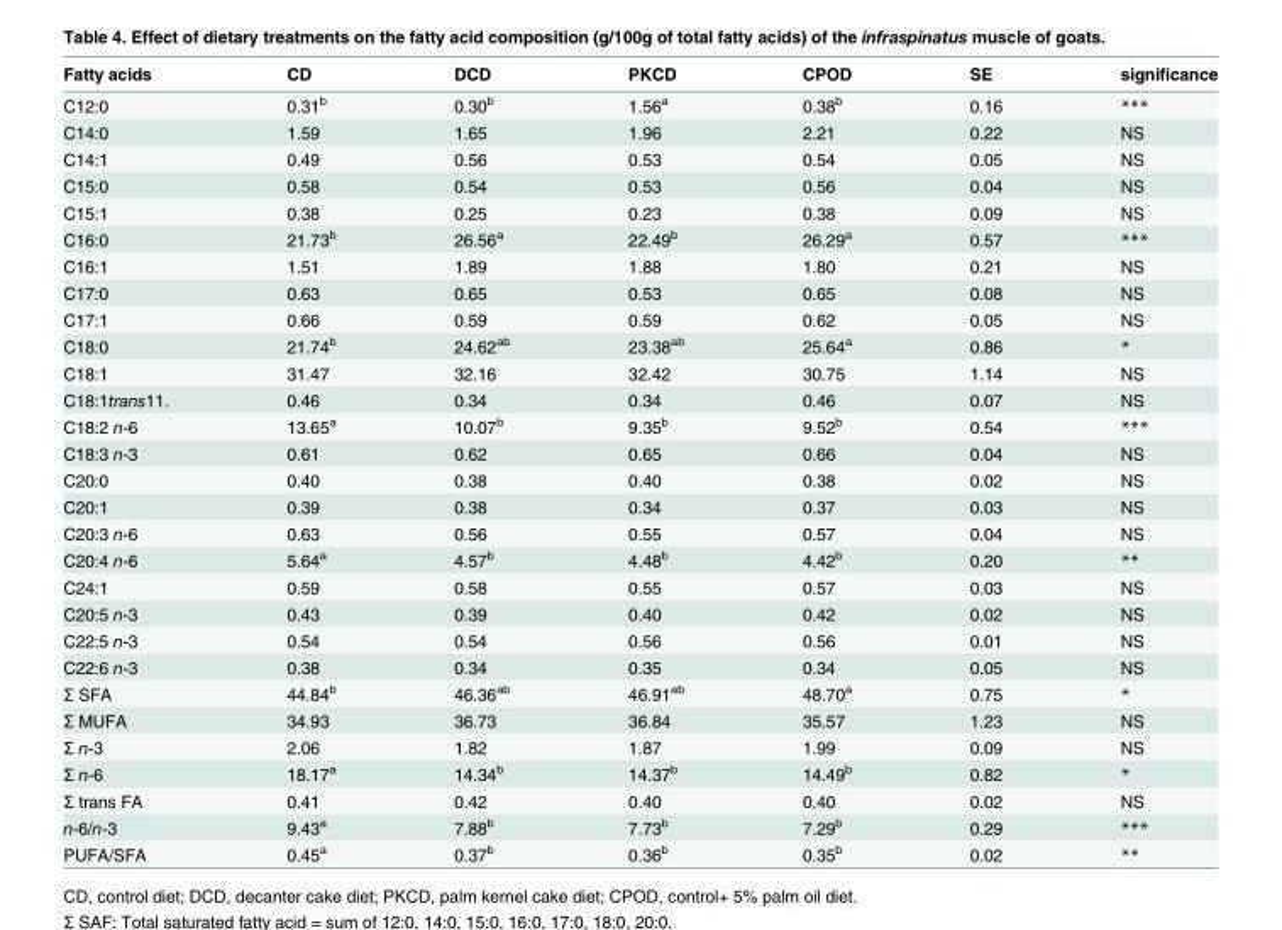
<table><thead><tr><td>Fatty acids</td><td>CD</td><td>DCD</td><td>PKCD</td><td>CPOD</td><td>SE</td><td>significance</td></tr></thead><tbody><tr><td>C12:0</td><td>0.31<sup>b</sup></td><td>0.30<sup>b</sup></td><td>1.56<sup>a</sup></td><td>0.38<sup>b</sup></td><td>0.16</td><td>***</td></tr><tr><td>C14:0</td><td>1.59</td><td>1.65</td><td>1.96</td><td>2.21</td><td>0.22</td><td>NS</td></tr><tr><td>C14:1</td><td>0.49</td><td>0.56</td><td>0.53</td><td>0.54</td><td>0.05</td><td>NS</td></tr><tr><td>C15:0</td><td>0.58</td><td>0.54</td><td>0.53</td><td>0.56</td><td>0.04</td><td>NS</td></tr><tr><td>C15:1</td><td>0.38</td><td>0.25</td><td>0.23</td><td>0.38</td><td>0.09</td><td>NS</td></tr><tr><td>C16:0</td><td>21.73<sup>b</sup></td><td>26.56<sup>a</sup></td><td>22.49<sup>b</sup></td><td>26.29<sup>a</sup></td><td>0.57</td><td>***</td></tr><tr><td>C16:1</td><td>1.51</td><td>1.89</td><td>1.88</td><td>1.80</td><td>0.21</td><td>NS</td></tr><tr><td>C17:0</td><td>0.63</td><td>0.65</td><td>0.53</td><td>0.65</td><td>0.08</td><td>NS</td></tr><tr><td>C17:1</td><td>0.66</td><td>0.59</td><td>0.59</td><td>0.62</td><td>0.05</td><td>NS</td></tr><tr><td>C18:0</td><td>21.74<sup>b</sup></td><td>24.62<sup>ab</sup></td><td>23.38<sup>ab</sup></td><td>25.64<sup>a</sup></td><td>0.86</td><td>*</td></tr><tr><td>C18:1</td><td>31.47</td><td>32.16</td><td>32.42</td><td>30.75</td><td>1.14</td><td>NS</td></tr><tr><td>C18:1trans11.</td><td>0.46</td><td>0.34</td><td>0.34</td><td>0.46</td><td>0.07</td><td>NS</td></tr><tr><td>C18:2 n-6</td><td>13.65<sup>a</sup></td><td>10.07<sup>b</sup></td><td>9.35<sup>b</sup></td><td>9.52<sup>b</sup></td><td>0.54</td><td>***</td></tr><tr><td>C18:3 n-3</td><td>0.61</td><td>0.62</td><td>0.65</td><td>0.66</td><td>0.04</td><td>NS</td></tr><tr><td>C20:0</td><td>0.40</td><td>0.38</td><td>0.40</td><td>0.38</td><td>0.02</td><td>NS</td></tr><tr><td>C20:1</td><td>0.39</td><td>0.38</td><td>0.34</td><td>0.37</td><td>0.03</td><td>NS</td></tr><tr><td>C20:3 n-6</td><td>0.63</td><td>0.56</td><td>0.55</td><td>0.57</td><td>0.04</td><td>NS</td></tr><tr><td>C20:4 n-6</td><td>5.64<sup>a</sup></td><td>4.57<sup>b</sup></td><td>4.48<sup>b</sup></td><td>4.42<sup>b</sup></td><td>0.20</td><td>**</td></tr><tr><td>C24:1</td><td>0.59</td><td>0.58</td><td>0.55</td><td>0.57</td><td>0.03</td><td>NS</td></tr><tr><td>C20:5 n-3</td><td>0.43</td><td>0.39</td><td>0.40</td><td>0.42</td><td>0.02</td><td>NS</td></tr><tr><td>C22:5 n-3</td><td>0.54</td><td>0.54</td><td>0.56</td><td>0.56</td><td>0.01</td><td>NS</td></tr><tr><td>C22:6 n-3</td><td>0.38</td><td>0.34</td><td>0.35</td><td>0.34</td><td>0.05</td><td>NS</td></tr><tr><td>Σ SFA</td><td>44.84<sup>b</sup></td><td>46.36<sup>ab</sup></td><td>46.91<sup>ab</sup></td><td>48.70<sup>a</sup></td><td>0.75</td><td>*</td></tr><tr><td>Σ MUFA</td><td>34.93</td><td>36.73</td><td>36.84</td><td>35.57</td><td>1.23</td><td>NS</td></tr><tr><td>Σ n-3</td><td>2.06</td><td>1.82</td><td>1.87</td><td>1.99</td><td>0.09</td><td>NS</td></tr><tr><td>Σ n-6</td><td>18.17<sup>a</sup></td><td>14.34<sup>b</sup></td><td>14.37<sup>b</sup></td><td>14.49<sup>b</sup></td><td>0.82</td><td>*</td></tr><tr><td>Σ trans FA</td><td>0.41</td><td>0.42</td><td>0.40</td><td>0.40</td><td>0.02</td><td>NS</td></tr><tr><td>n-6/n-3</td><td>9.43<sup>a</sup></td><td>7.88<sup>b</sup></td><td>7.73<sup>b</sup></td><td>7.29<sup>b</sup></td><td>0.29</td><td>***</td></tr><tr><td>PUFA/SFA</td><td>0.45<sup>a</sup></td><td>0.37<sup>b</sup></td><td>0.36<sup>b</sup></td><td>0.35<sup>b</sup></td><td>0.02</td><td>**</td></tr></tbody></table>